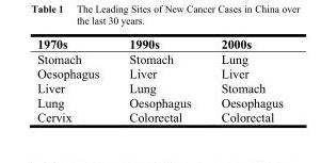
<table><thead><tr><td>1970s</td><td>1990s</td><td>2000s</td></tr></thead><tbody><tr><td>Stomach</td><td>Stomach</td><td>Lung</td></tr><tr><td>Oesophagus</td><td>Liver</td><td>Liver</td></tr><tr><td>Liver</td><td>Lung</td><td>Stomach</td></tr><tr><td>Lung</td><td>Oesophagus</td><td>Oesophagus</td></tr><tr><td>Cervix</td><td>Colorectal</td><td>Colorectal</td></tr></tbody></table>